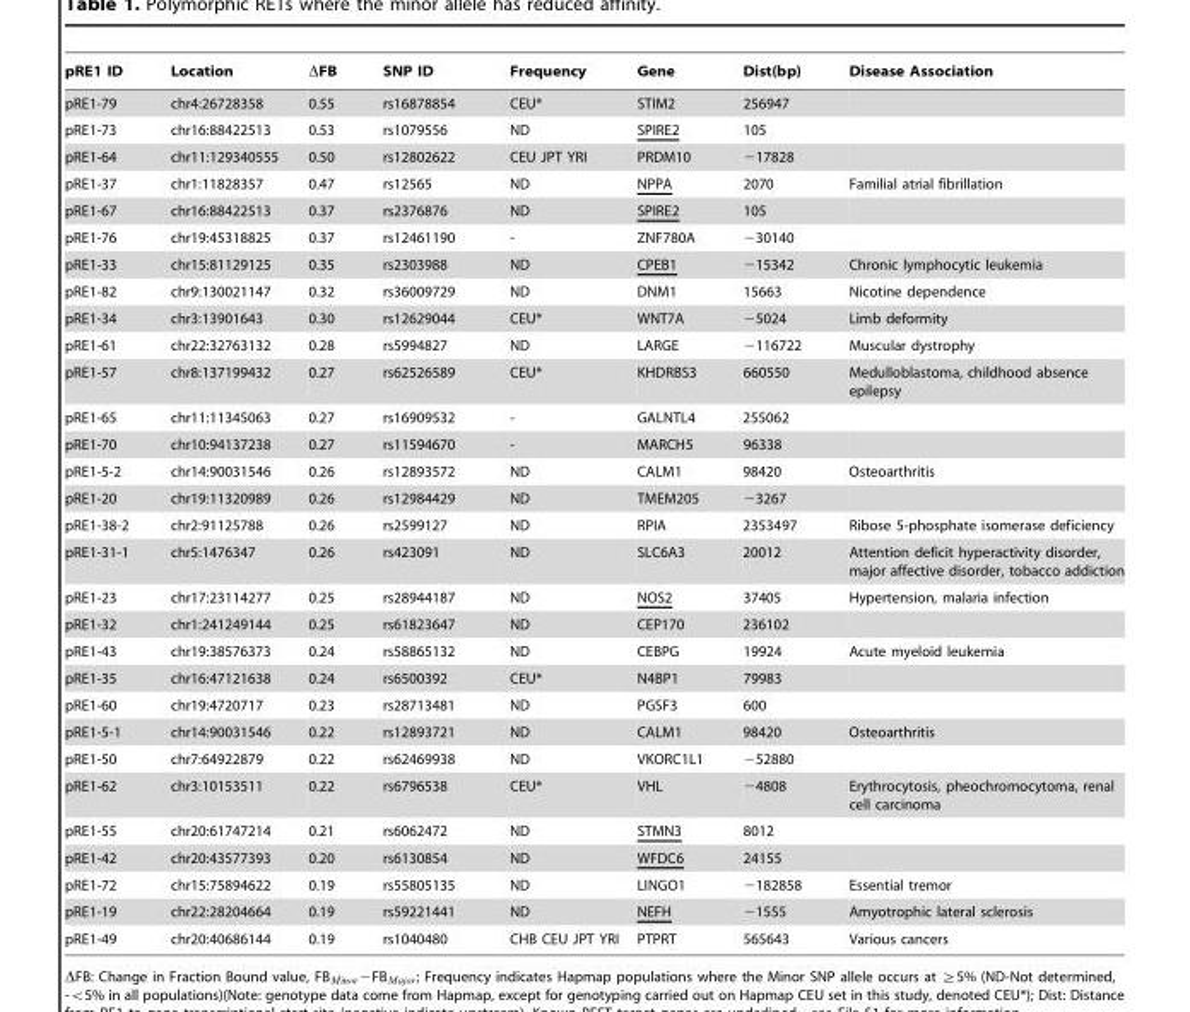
<table><thead><tr><td>pRE1 ID</td><td>Location</td><td>DFB</td><td>SNP ID</td><td>Frequency</td><td>Gene</td><td>Dist(bp)</td><td>Disease Association</td></tr></thead><tbody><tr><td>pRE1-79</td><td>chr4:26728358</td><td>0.55</td><td>rs16878854</td><td>CEU*</td><td>STIM2</td><td>256947</td><td></td></tr><tr><td>pRE1-73</td><td>chr16:88422513</td><td>0.53</td><td>rs1079556</td><td>ND</td><td>SPIRE2</td><td>105</td><td></td></tr><tr><td>pRE1-64</td><td>chr11:129340555</td><td>0.50</td><td>rs12802622</td><td>CEU JPT YRI</td><td>PRDM10</td><td>−17828</td><td></td></tr><tr><td>pRE1-37</td><td>chr1:11828357</td><td>0.47</td><td>rs12565</td><td>ND</td><td>NPPA</td><td>2070</td><td>Familial atrial fibrillation</td></tr><tr><td>pRE1-67</td><td>chr16:88422513</td><td>0.37</td><td>rs2376876</td><td>ND</td><td>SPIRE2</td><td>105</td><td></td></tr><tr><td>pRE1-76</td><td>chr19:45318825</td><td>0.37</td><td>rs12461190</td><td>-</td><td>ZNF780A</td><td>−30140</td><td></td></tr><tr><td>pRE1-33</td><td>chr15:81129125</td><td>0.35</td><td>rs2303988</td><td>ND</td><td>CPEB1</td><td>−15342</td><td>Chronic lymphocytic leukemia</td></tr><tr><td>pRE1-82</td><td>chr9:130021147</td><td>0.32</td><td>rs36009729</td><td>ND</td><td>DNM1</td><td>15663</td><td>Nicotine dependence</td></tr><tr><td>pRE1-34</td><td>chr3:13901643</td><td>0.30</td><td>rs12629044</td><td>CEU*</td><td>WNT7A</td><td>−5024</td><td>Limb deformity</td></tr><tr><td>pRE1-61</td><td>chr22:32763132</td><td>0.28</td><td>rs5994827</td><td>ND</td><td>LARGE</td><td>−116722</td><td>Muscular dystrophy</td></tr><tr><td>pRE1-57</td><td>chr8:137199432</td><td>0.27</td><td>rs62526589</td><td>CEU*</td><td>KHDRBS3</td><td>660550</td><td>Medulloblastoma, childhood absence epilepsy</td></tr><tr><td>pRE1-65</td><td>chr11:11345063</td><td>0.27</td><td>rs16909532</td><td>-</td><td>GALNTL4</td><td>255062</td><td></td></tr><tr><td>pRE1-70</td><td>chr10:94137238</td><td>0.27</td><td>rs11594670</td><td>-</td><td>MARCH5</td><td>96338</td><td></td></tr><tr><td>pRE1-5-2</td><td>chr14:90031546</td><td>0.26</td><td>rs12893572</td><td>ND</td><td>CALM1</td><td>98420</td><td>Osteoarthritis</td></tr><tr><td>pRE1-20</td><td>chr19:11320989</td><td>0.26</td><td>rs12984429</td><td>ND</td><td>TMEM205</td><td>−3267</td><td></td></tr><tr><td>pRE1-38-2</td><td>chr2:91125788</td><td>0.26</td><td>rs2599127</td><td>ND</td><td>RPIA</td><td>2353497</td><td>Ribose 5-phosphate isomerase deficiency</td></tr><tr><td>pRE1-31-1</td><td>chr5:1476347</td><td>0.26</td><td>rs423091</td><td>ND</td><td>SLC6A3</td><td>20012</td><td>Attention deficit hyperactivity disorder, major affective disorder, tobacco addiction</td></tr><tr><td>pRE1-23</td><td>chr17:23114277</td><td>0.25</td><td>rs28944187</td><td>ND</td><td>NOS2</td><td>37405</td><td>Hypertension, malaria infection</td></tr><tr><td>pRE1-32</td><td>chr1:241249144</td><td>0.25</td><td>rs61823647</td><td>ND</td><td>CEP170</td><td>236102</td><td></td></tr><tr><td>pRE1-43</td><td>chr19:38576373</td><td>0.24</td><td>rs58865132</td><td>ND</td><td>CEBPG</td><td>19924</td><td>Acute myeloid leukemia</td></tr><tr><td>pRE1-35</td><td>chr16:47121638</td><td>0.24</td><td>rs6500392</td><td>CEU*</td><td>N4BP1</td><td>79983</td><td></td></tr><tr><td>pRE1-60</td><td>chr19:4720717</td><td>0.23</td><td>rs28713481</td><td>ND</td><td>PGSF3</td><td>600</td><td></td></tr><tr><td>pRE1-5-1</td><td>chr14:90031546</td><td>0.22</td><td>rs12893721</td><td>ND</td><td>CALM1</td><td>98420</td><td>Osteoarthritis</td></tr><tr><td>pRE1-50</td><td>chr7:64922879</td><td>0.22</td><td>rs62469938</td><td>ND</td><td>VKORC1L1</td><td>−52880</td><td></td></tr><tr><td>pRE1-62</td><td>chr3:10153511</td><td>0.22</td><td>rs6796538</td><td>CEU*</td><td>VHL</td><td>−4808</td><td>Erythrocytosis, pheochromocytoma, renal cell carcinoma</td></tr><tr><td>pRE1-55</td><td>chr20:61747214</td><td>0.21</td><td>rs6062472</td><td>ND</td><td>STMN3</td><td>8012</td><td></td></tr><tr><td>pRE1-42</td><td>chr20:43577393</td><td>0.20</td><td>rs6130854</td><td>ND</td><td>WFDC6</td><td>24155</td><td></td></tr><tr><td>pRE1-72</td><td>chr15:75894622</td><td>0.19</td><td>rs55805135</td><td>ND</td><td>LINGO1</td><td>−182858</td><td>Essential tremor</td></tr><tr><td>pRE1-19</td><td>chr22:28204664</td><td>0.19</td><td>rs59221441</td><td>ND</td><td>NEFH</td><td>−1555</td><td>Amyotrophic lateral sclerosis</td></tr><tr><td>pRE1-49</td><td>chr20:40686144</td><td>0.19</td><td>rs1040480</td><td>CHB CEU JPT YRI</td><td>PTPRT</td><td>565643</td><td>Various cancers</td></tr></tbody></table>